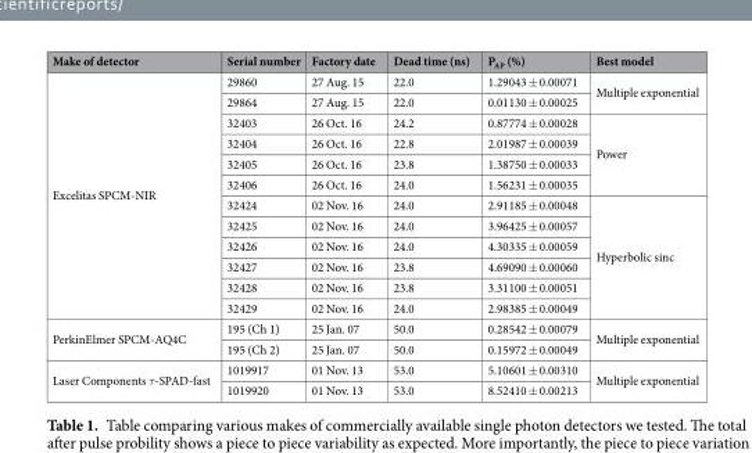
<table><thead><tr><td>Make of detector</td><td>Serial number</td><td>Factory date</td><td>Dead time (ns)</td><td>P<sub>AP</sub> (%)</td><td>Best model</td></tr></thead><tbody><tr><td rowspan="12">Excelitas SPCM-NIR</td><td>29860</td><td>27 Aug. 15</td><td>22.0</td><td>1.29043 ± 0.00071</td><td rowspan="2">Multiple exponential</td></tr><tr><td>29864</td><td>27 Aug. 15</td><td>22.0</td><td>0.01130 ± 0.00025</td></tr><tr><td>32403</td><td>26 Oct. 16</td><td>24.2</td><td>0.87774 ± 0.00028</td><td rowspan="4">Power</td></tr><tr><td>32404</td><td>26 Oct. 16</td><td>22.8</td><td>2.01987 ± 0.00039</td></tr><tr><td>32405</td><td>26 Oct. 16</td><td>23.8</td><td>1.38750 ± 0.00033</td></tr><tr><td>32406</td><td>26 Oct. 16</td><td>24.0</td><td>1.56231 ± 0.00035</td></tr><tr><td>32424</td><td>02 Nov. 16</td><td>24.0</td><td>2.91185 ± 0.00048</td><td rowspan="6">Hyperbolic sinc</td></tr><tr><td>32425</td><td>02 Nov. 16</td><td>24.0</td><td>3.96425 ± 0.00057</td></tr><tr><td>32426</td><td>02 Nov. 16</td><td>24.0</td><td>4.30335 ± 0.00059</td></tr><tr><td>32427</td><td>02 Nov. 16</td><td>23.8</td><td>4.69090 ± 0.00060</td></tr><tr><td>32428</td><td>02 Nov. 16</td><td>23.8</td><td>3.31100 ± 0.00051</td></tr><tr><td>32429</td><td>02 Nov. 16</td><td>24.0</td><td>2.98385 ± 0.00049</td></tr><tr><td rowspan="2">PerkinElmer SPCM-AQ4C</td><td>195 (Ch 1)</td><td>25 Jan. 07</td><td>50.0</td><td>0.28542 ± 0.00079</td><td rowspan="2">Multiple exponential</td></tr><tr><td>195 (Ch 2)</td><td>25 Jan. 07</td><td>50.0</td><td>0.15972 ± 0.00049</td></tr><tr><td rowspan="2">Laser Components τ-SPAD-fast</td><td>1019917</td><td>01 Nov. 13</td><td>53.0</td><td>5.10601 ± 0.00310</td><td rowspan="2">Multiple exponential</td></tr><tr><td>1019920</td><td>01 Nov. 13</td><td>53.0</td><td>8.52410 ± 0.00213</td></tr></tbody></table>